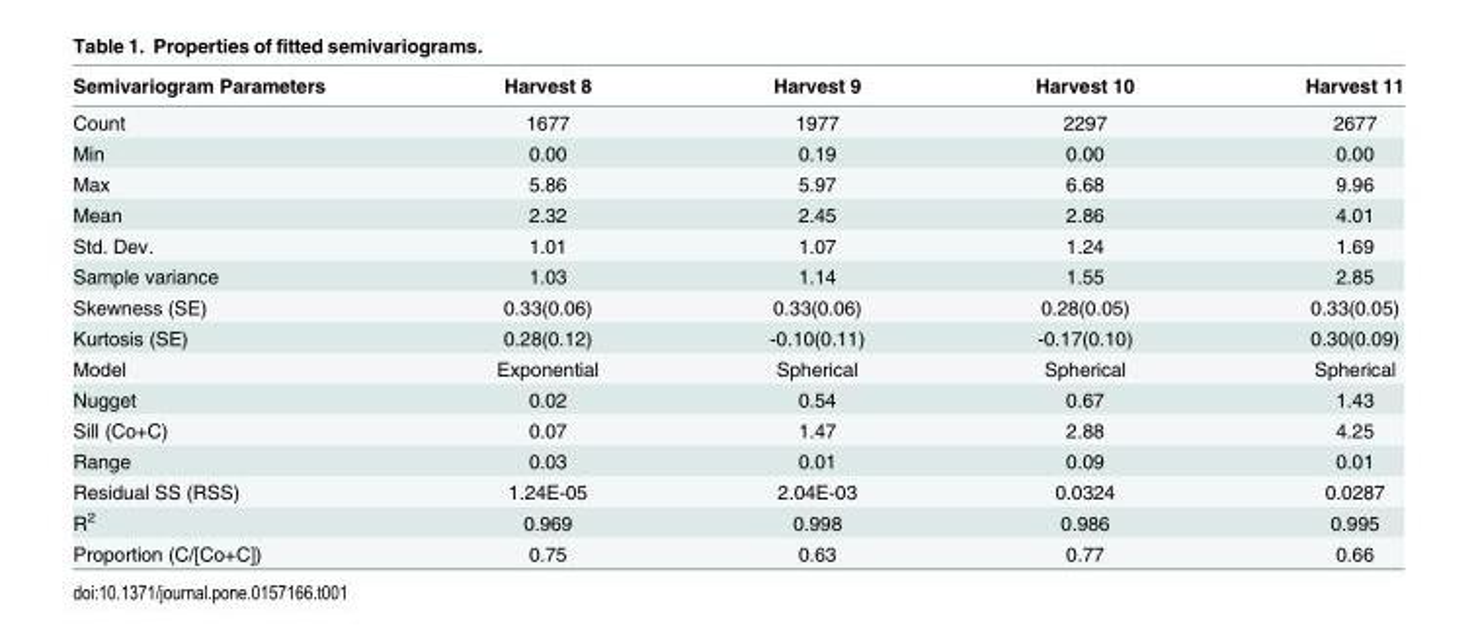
<table><thead><tr><td>Semivariogram Parameters</td><td>Harvest 8</td><td>Harvest 9</td><td>Harvest 10</td><td>Harvest 11</td></tr></thead><tbody><tr><td>Count</td><td>1677</td><td>1977</td><td>2297</td><td>2677</td></tr><tr><td>Min</td><td>0.00</td><td>0.19</td><td>0.00</td><td>0.00</td></tr><tr><td>Max</td><td>5.86</td><td>5.97</td><td>6.68</td><td>9.96</td></tr><tr><td>Mean</td><td>2.32</td><td>2.45</td><td>2.86</td><td>4.01</td></tr><tr><td>Std. Dev.</td><td>1.01</td><td>1.07</td><td>1.24</td><td>1.69</td></tr><tr><td>Sample variance</td><td>1.03</td><td>1.14</td><td>1.55</td><td>2.85</td></tr><tr><td>Skewness (SE)</td><td>0.33(0.06)</td><td>0.33(0.06)</td><td>0.28(0.05)</td><td>0.33(0.05)</td></tr><tr><td>Kurtosis (SE)</td><td>0.28(0.12)</td><td>-0.10(0.11)</td><td>-0.17(0.10)</td><td>0.30(0.09)</td></tr><tr><td>Model</td><td>Exponential</td><td>Spherical</td><td>Spherical</td><td>Spherical</td></tr><tr><td>Nugget</td><td>0.02</td><td>0.54</td><td>0.67</td><td>1.43</td></tr><tr><td>Sill (Co+C)</td><td>0.07</td><td>1.47</td><td>2.88</td><td>4.25</td></tr><tr><td>Range</td><td>0.03</td><td>0.01</td><td>0.09</td><td>0.01</td></tr><tr><td>Residual SS (RSS)</td><td>1.24E-05</td><td>2.04E-03</td><td>0.0324</td><td>0.0287</td></tr><tr><td>R<sup>2</sup></td><td>0.969</td><td>0.998</td><td>0.986</td><td>0.995</td></tr><tr><td>Proportion (C/[Co+C])</td><td>0.75</td><td>0.63</td><td>0.77</td><td>0.66</td></tr></tbody></table>